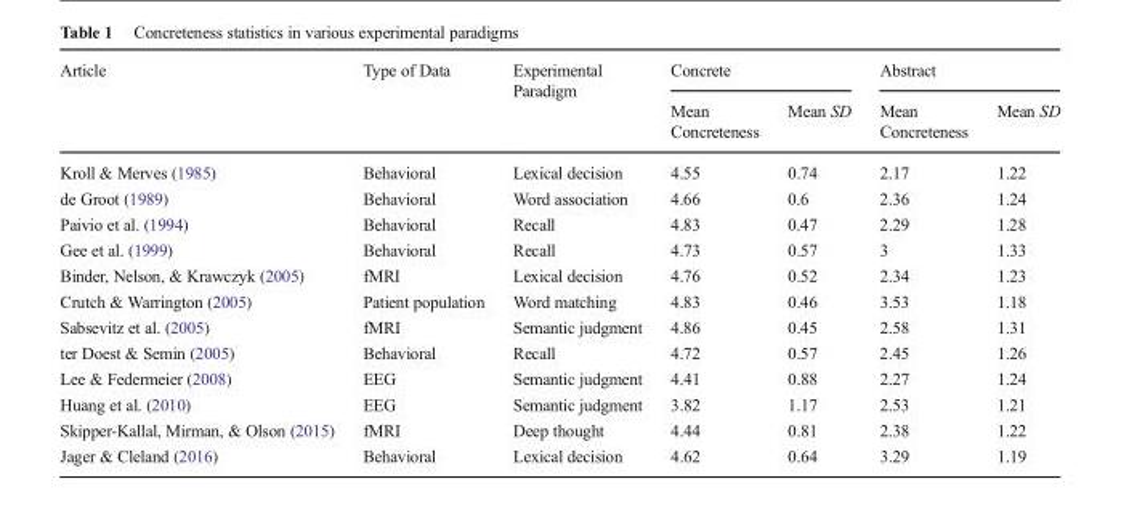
<table><thead><tr><td rowspan="2">Article</td><td rowspan="2">Type of Data</td><td rowspan="2">Experimental Paradigm</td><td colspan="2">Concrete</td><td colspan="2">Abstract</td></tr><tr><td>Mean Concreteness</td><td>Mean SD</td><td>Mean Concreteness</td><td>Mean SD</td></tr></thead><tbody><tr><td>Kroll &amp; Merves (1985)</td><td>Behavioral</td><td>Lexical decision</td><td>4.55</td><td>0.74</td><td>2.17</td><td>1.22</td></tr><tr><td>de Groot (1989)</td><td>Behavioral</td><td>Word association</td><td>4.66</td><td>0.6</td><td>2.36</td><td>1.24</td></tr><tr><td>Paivio et al. (1994)</td><td>Behavioral</td><td>Recall</td><td>4.83</td><td>0.47</td><td>2.29</td><td>1.28</td></tr><tr><td>Gee et al. (1999)</td><td>Behavioral</td><td>Recall</td><td>4.73</td><td>0.57</td><td>3</td><td>1.33</td></tr><tr><td>Binder, Nelson, &amp; Krawczyk (2005)</td><td>fMRI</td><td>Lexical decision</td><td>4.76</td><td>0.52</td><td>2.34</td><td>1.23</td></tr><tr><td>Crutch &amp; Warrington (2005)</td><td>Patient population</td><td>Word matching</td><td>4.83</td><td>0.46</td><td>3.53</td><td>1.18</td></tr><tr><td>Sabsevitz et al. (2005)</td><td>fMRI</td><td>Semantic judgment</td><td>4.86</td><td>0.45</td><td>2.58</td><td>1.31</td></tr><tr><td>ter Doest &amp; Semin (2005)</td><td>Behavioral</td><td>Recall</td><td>4.72</td><td>0.57</td><td>2.45</td><td>1.26</td></tr><tr><td>Lee &amp; Federmeier (2008)</td><td>EEG</td><td>Semantic judgment</td><td>4.41</td><td>0.88</td><td>2.27</td><td>1.24</td></tr><tr><td>Huang et al. (2010)</td><td>EEG</td><td>Semantic judgment</td><td>3.82</td><td>1.17</td><td>2.53</td><td>1.21</td></tr><tr><td>Skipper-Kallal, Mirman, &amp; Olson (2015)</td><td>fMRI</td><td>Deep thought</td><td>4.44</td><td>0.81</td><td>2.38</td><td>1.22</td></tr><tr><td>Jager &amp; Cleland (2016)</td><td>Behavioral</td><td>Lexical decision</td><td>4.62</td><td>0.64</td><td>3.29</td><td>1.19</td></tr></tbody></table>